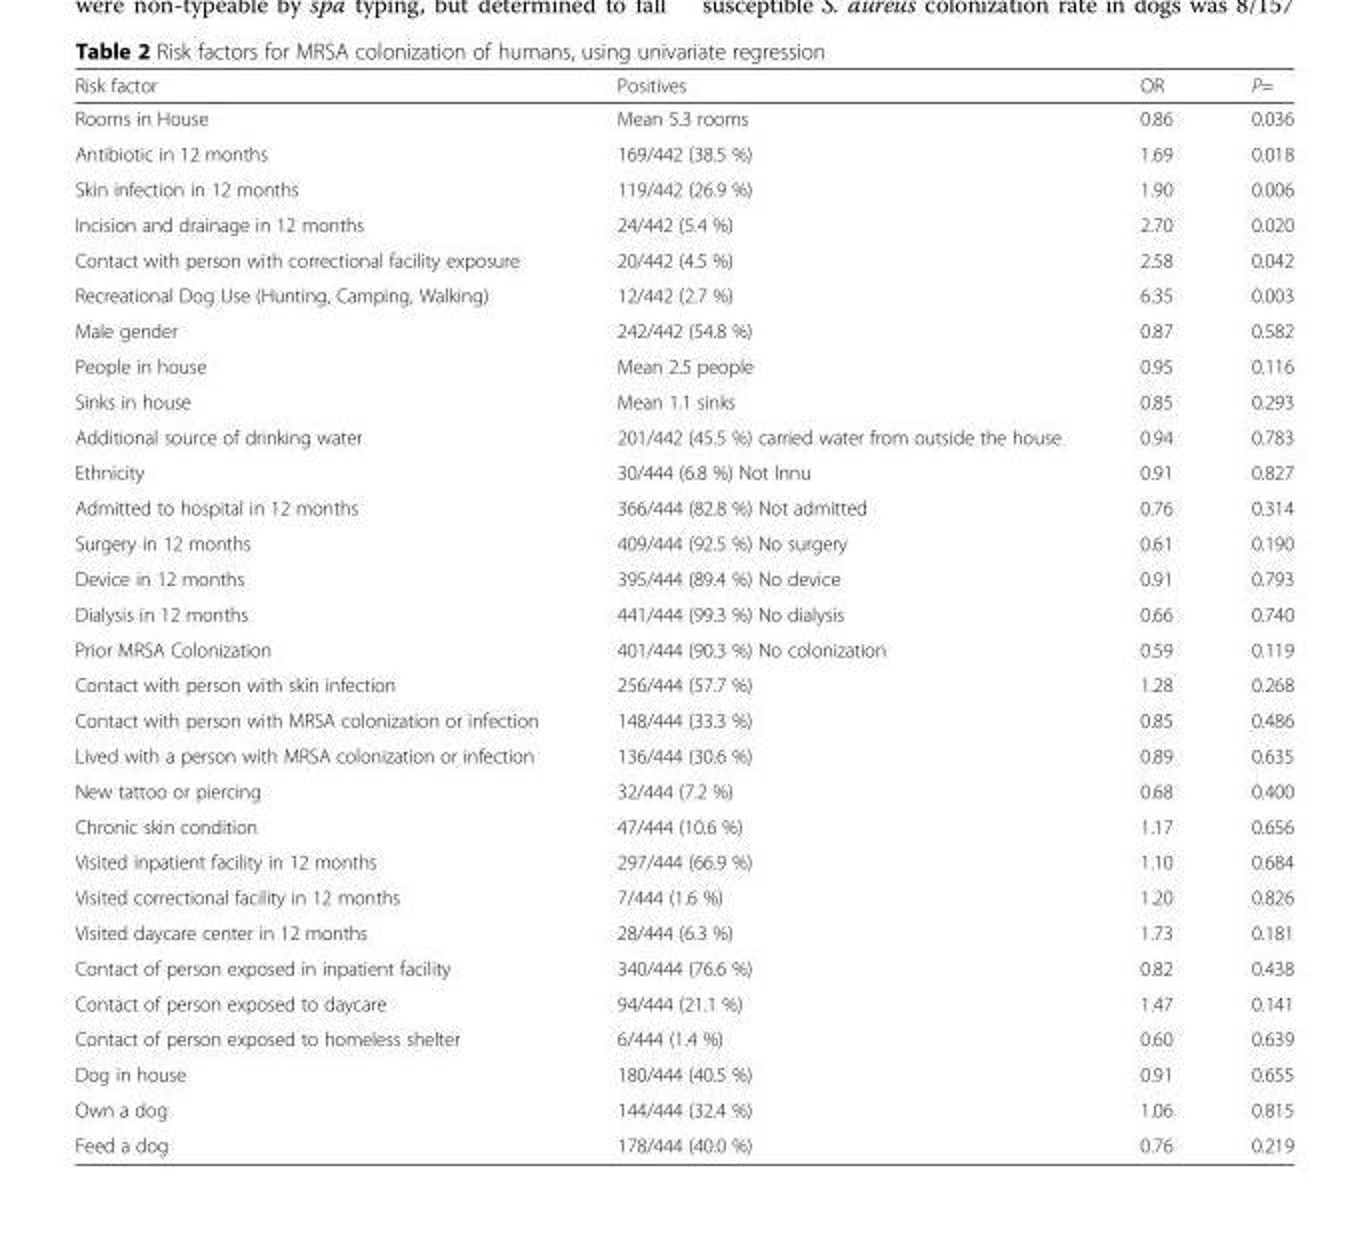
<table><thead><tr><td>Risk factor</td><td>Positives</td><td>OR</td><td>P=</td></tr></thead><tbody><tr><td>Rooms in House</td><td>Mean 5.3 rooms</td><td>0.86</td><td>0.036</td></tr><tr><td>Antibiotic in 12 months</td><td>169/442 (38.5 %)</td><td>1.69</td><td>0.018</td></tr><tr><td>Skin infection in 12 months</td><td>119/442 (26.9 %)</td><td>1.90</td><td>0.006</td></tr><tr><td>Incision and drainage in 12 months</td><td>24/442 (5.4 %)</td><td>2.70</td><td>0.020</td></tr><tr><td>Contact with person with correctional facility exposure</td><td>20/442 (4.5 %)</td><td>2.58</td><td>0.042</td></tr><tr><td>Recreational Dog Use (Hunting, Camping, Walking)</td><td>12/442 (2.7 %)</td><td>6.35</td><td>0.003</td></tr><tr><td>Male gender</td><td>242/442 (54.8 %)</td><td>0.87</td><td>0.582</td></tr><tr><td>People in house</td><td>Mean 2.5 people</td><td>0.95</td><td>0.116</td></tr><tr><td>Sinks in house</td><td>Mean 1.1 sinks</td><td>0.85</td><td>0.293</td></tr><tr><td>Additional source of drinking water</td><td>201/442 (45.5 %) carried water from outside the house</td><td>0.94</td><td>0.783</td></tr><tr><td>Ethnicity</td><td>30/444 (6.8 %) Not Innu</td><td>0.91</td><td>0.827</td></tr><tr><td>Admitted to hospital in 12 months</td><td>366/444 (82.8 %) Not admitted</td><td>0.76</td><td>0.314</td></tr><tr><td>Surgery in 12 months</td><td>409/444 (92.5 %) No surgery</td><td>0.61</td><td>0.190</td></tr><tr><td>Device in 12 months</td><td>395/444 (89.4 %) No device</td><td>0.91</td><td>0.793</td></tr><tr><td>Dialysis in 12 months</td><td>441/444 (99.3 %) No dialysis</td><td>0.66</td><td>0.740</td></tr><tr><td>Prior MRSA Colonization</td><td>401/444 (90.3 %) No colonization</td><td>0.59</td><td>0.119</td></tr><tr><td>Contact with person with skin infection</td><td>256/444 (57.7 %)</td><td>1.28</td><td>0.268</td></tr><tr><td>Contact with person with MRSA colonization or infection</td><td>148/444 (33.3 %)</td><td>0.85</td><td>0.486</td></tr><tr><td>Lived with a person with MRSA colonization or infection</td><td>136/444 (30.6 %)</td><td>0.89</td><td>0.635</td></tr><tr><td>New tattoo or piercing</td><td>32/444 (7.2 %)</td><td>0.68</td><td>0.400</td></tr><tr><td>Chronic skin condition</td><td>47/444 (10.6 %)</td><td>1.17</td><td>0.656</td></tr><tr><td>Visited inpatient facility in 12 months</td><td>297/444 (66.9 %)</td><td>1.10</td><td>0.684</td></tr><tr><td>Visited correctional facility in 12 months</td><td>7/444 (1.6 %)</td><td>1.20</td><td>0.826</td></tr><tr><td>Visited daycare center in 12 months</td><td>28/444 (6.3 %)</td><td>1.73</td><td>0.181</td></tr><tr><td>Contact of person exposed in inpatient facility</td><td>340/444 (76.6 %)</td><td>0.82</td><td>0.438</td></tr><tr><td>Contact of person exposed to daycare</td><td>94/444 (21.1 %)</td><td>1.47</td><td>0.141</td></tr><tr><td>Contact of person exposed to homeless shelter</td><td>6/444 (1.4 %)</td><td>0.60</td><td>0.639</td></tr><tr><td>Dog in house</td><td>180/444 (40.5 %)</td><td>0.91</td><td>0.655</td></tr><tr><td>Own a dog</td><td>144/444 (32.4 %)</td><td>1.06</td><td>0.815</td></tr><tr><td>Feed a dog</td><td>178/444 (40.0 %)</td><td>0.76</td><td>0.219</td></tr></tbody></table>